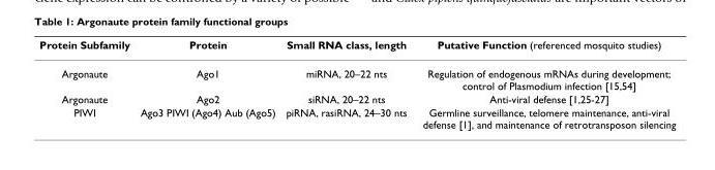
<table><thead><tr><td>Protein Subfamily</td><td>Protein</td><td>Small RNA class, length</td><td>Putative Function (referenced mosquito studies)</td></tr></thead><tbody><tr><td>Argonaute</td><td>Ago1</td><td>miRNA, 20–22 nts</td><td>Regulation of endogenous mRNAs during development; control of Plasmodium infection [15,54]</td></tr><tr><td>Argonaute</td><td>Ago2</td><td>siRNA, 20–22 nts</td><td>Anti-viral defense [1,25-27]</td></tr><tr><td>PIWI</td><td>Ago3 PIWI (Ago4) Aub (Ago5)</td><td>piRNA, rasiRNA, 24–30 nts</td><td>Germline surveillance, telomere maintenance, anti-viral defense [1], and maintenance of retrotransposon silencing</td></tr></tbody></table>